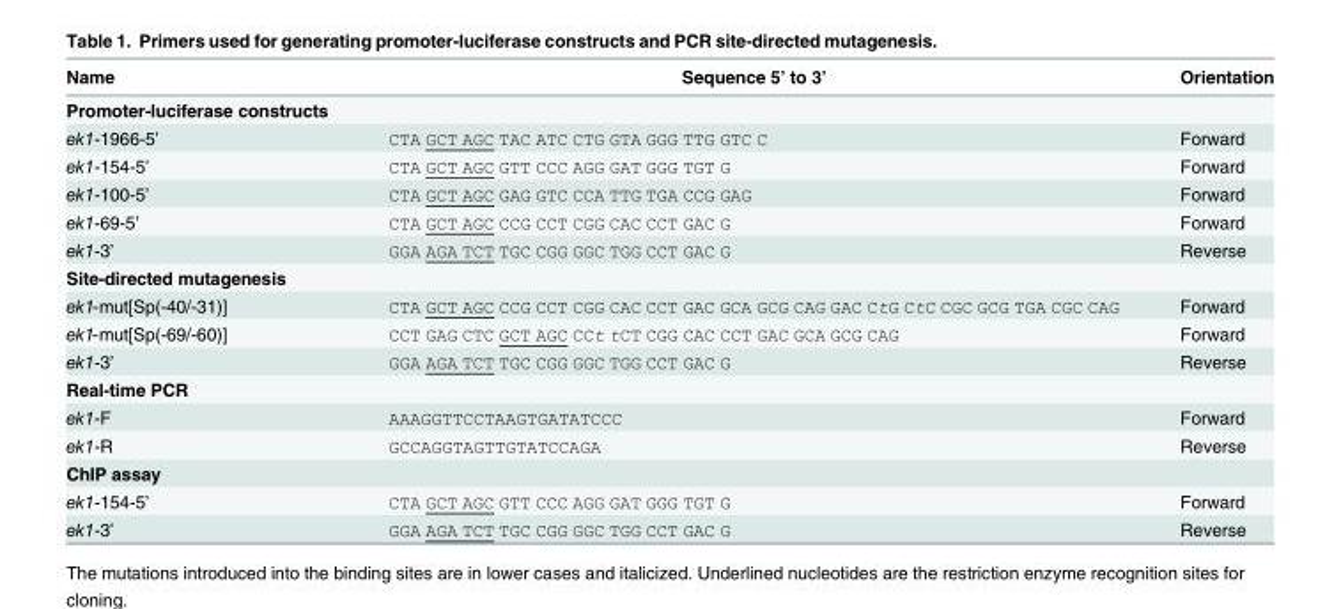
<table><thead><tr><td>Name</td><td>Sequence 5’ to 3’</td><td>Orientation</td></tr></thead><tbody><tr><td colspan="3">Promoter-luciferase constructs</td></tr><tr><td>ek1-1966-5’</td><td>CTA GCT AGC TAC ATC CTG GTA GGG TTG GTC C</td><td>Forward</td></tr><tr><td>ek1-154-5’</td><td>CTA GCT AGC GTT CCC AGG GAT GGG TGT G</td><td>Forward</td></tr><tr><td>ek1-100-5’</td><td>CTA GCT AGC GAG GTC CCA TTG TGA CCG GAG</td><td>Forward</td></tr><tr><td>ek1-69-5’</td><td>CTA GCT AGC CCG CCT CGG CAC CCT GAC G</td><td>Forward</td></tr><tr><td>ek1-3’</td><td>GGA AGA TCT TGC CGG GGC TGG CCT GAC G</td><td>Reverse</td></tr><tr><td colspan="3">Site-directed mutagenesis</td></tr><tr><td>ek1-mut[Sp(-40/-31)]</td><td>CTA GCT AGC CCG CCT CGG CAC CCT GAC GCA GCG CAG GAC CtG CtC CGC GCG TGA CGC CAG</td><td>Forward</td></tr><tr><td>ek1-mut[Sp(-69/-60)]</td><td>CCT GAG CTC GCT AGC CCt tCT CGG CAC CCT GAC GCA GCG CAG</td><td>Forward</td></tr><tr><td>ek1-3’</td><td>GGA AGA TCT TGC CGG GGC TGG CCT GAC G</td><td>Reverse</td></tr><tr><td colspan="3">Real-time PCR</td></tr><tr><td>ek1-F</td><td>AAAGGTTCCTAAGTGATATCCC</td><td>Forward</td></tr><tr><td>ek1-R</td><td>GCCAGGTAGTTGTATCCAGA</td><td>Reverse</td></tr><tr><td colspan="3">ChIP assay</td></tr><tr><td>ek1-154-5’</td><td>CTA GCT AGC GTT CCC AGG GAT GGG TGT G</td><td>Forward</td></tr><tr><td>ek1-3’</td><td>GGA AGA TCT TGC CGG GGC TGG CCT GAC G</td><td>Reverse</td></tr></tbody></table>